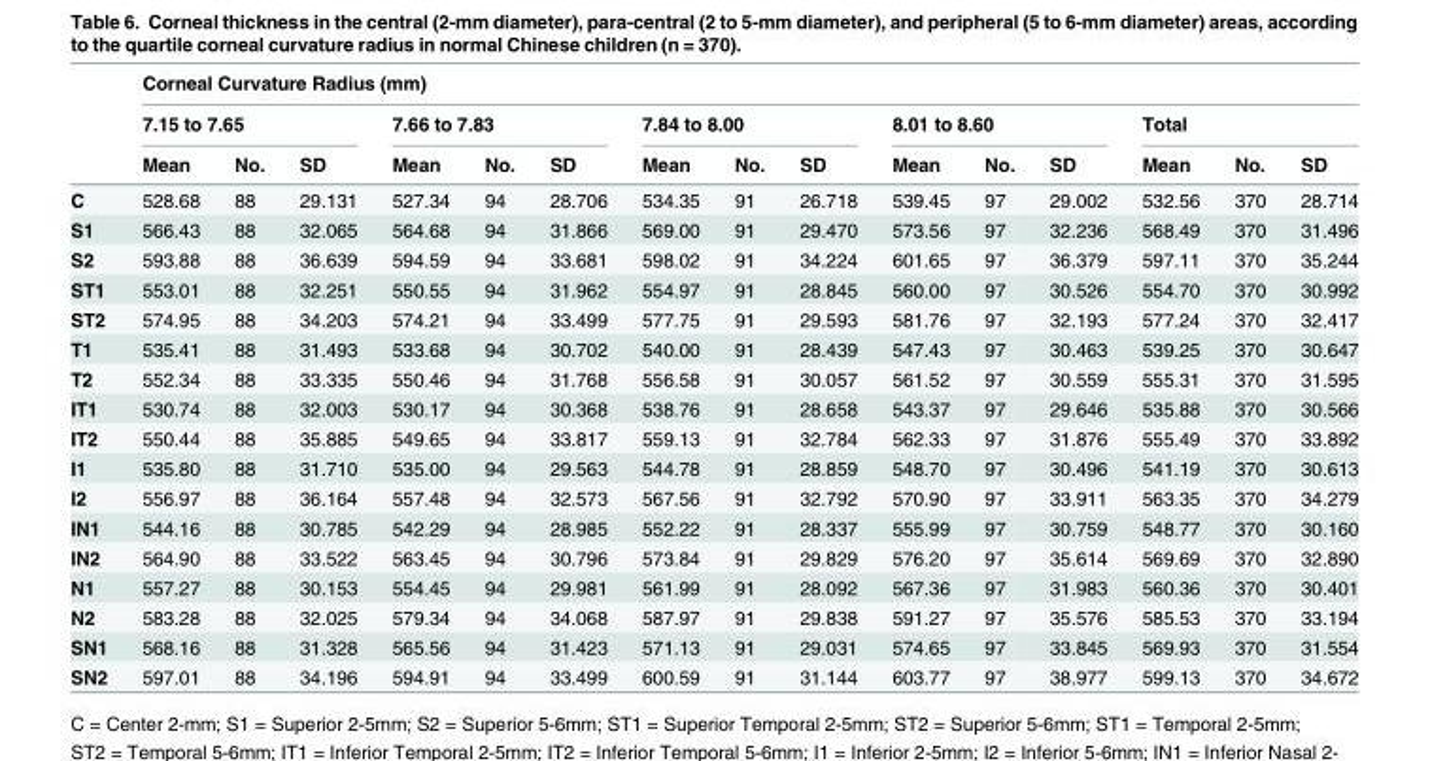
<table><thead><tr><td rowspan="3"></td><td colspan="15">Corneal Curvature Radius (mm)</td></tr><tr><td colspan="3">7.15 to 7.65</td><td colspan="3">7.66 to 7.83</td><td colspan="3">7.84 to 8.00</td><td colspan="3">8.01 to 8.60</td><td colspan="3">Total</td></tr><tr><td>Mean</td><td>No.</td><td>SD</td><td>Mean</td><td>No.</td><td>SD</td><td>Mean</td><td>No.</td><td>SD</td><td>Mean</td><td>No.</td><td>SD</td><td>Mean</td><td>No.</td><td>SD</td></tr></thead><tbody><tr><td>C</td><td>528.68</td><td>88</td><td>29.131</td><td>527.34</td><td>94</td><td>28.706</td><td>534.35</td><td>91</td><td>26.718</td><td>539.45</td><td>97</td><td>29.002</td><td>532.56</td><td>370</td><td>28.714</td></tr><tr><td>S1</td><td>566.43</td><td>88</td><td>32.065</td><td>564.68</td><td>94</td><td>31.866</td><td>569.00</td><td>91</td><td>29.470</td><td>573.56</td><td>97</td><td>32.236</td><td>568.49</td><td>370</td><td>31.496</td></tr><tr><td>S2</td><td>593.88</td><td>88</td><td>36.639</td><td>594.59</td><td>94</td><td>33.681</td><td>598.02</td><td>91</td><td>34.224</td><td>601.65</td><td>97</td><td>36.379</td><td>597.11</td><td>370</td><td>35.244</td></tr><tr><td>ST1</td><td>553.01</td><td>88</td><td>32.251</td><td>550.55</td><td>94</td><td>31.962</td><td>554.97</td><td>91</td><td>28.845</td><td>560.00</td><td>97</td><td>30.526</td><td>554.70</td><td>370</td><td>30.992</td></tr><tr><td>ST2</td><td>574.95</td><td>88</td><td>34.203</td><td>574.21</td><td>94</td><td>33.499</td><td>577.75</td><td>91</td><td>29.593</td><td>581.76</td><td>97</td><td>32.193</td><td>577.24</td><td>370</td><td>32.417</td></tr><tr><td>T1</td><td>535.41</td><td>88</td><td>31.493</td><td>533.68</td><td>94</td><td>30.702</td><td>540.00</td><td>91</td><td>28.439</td><td>547.43</td><td>97</td><td>30.463</td><td>539.25</td><td>370</td><td>30.647</td></tr><tr><td>T2</td><td>552.34</td><td>88</td><td>33.335</td><td>550.46</td><td>94</td><td>31.768</td><td>556.58</td><td>91</td><td>30.057</td><td>561.52</td><td>97</td><td>30.559</td><td>555.31</td><td>370</td><td>31.595</td></tr><tr><td>IT1</td><td>530.74</td><td>88</td><td>32.003</td><td>530.17</td><td>94</td><td>30.368</td><td>538.76</td><td>91</td><td>28.658</td><td>543.37</td><td>97</td><td>29.646</td><td>535.88</td><td>370</td><td>30.566</td></tr><tr><td>IT2</td><td>550.44</td><td>88</td><td>35.885</td><td>549.65</td><td>94</td><td>33.817</td><td>559.13</td><td>91</td><td>32.784</td><td>562.33</td><td>97</td><td>31.876</td><td>555.49</td><td>370</td><td>33.892</td></tr><tr><td>I1</td><td>535.80</td><td>88</td><td>31.710</td><td>535.00</td><td>94</td><td>29.563</td><td>544.78</td><td>91</td><td>28.859</td><td>548.70</td><td>97</td><td>30.496</td><td>541.19</td><td>370</td><td>30.613</td></tr><tr><td>I2</td><td>556.97</td><td>88</td><td>36.164</td><td>557.48</td><td>94</td><td>32.573</td><td>567.56</td><td>91</td><td>32.792</td><td>570.90</td><td>97</td><td>33.911</td><td>563.35</td><td>370</td><td>34.279</td></tr><tr><td>IN1</td><td>544.16</td><td>88</td><td>30.785</td><td>542.29</td><td>94</td><td>28.985</td><td>552.22</td><td>91</td><td>28.337</td><td>555.99</td><td>97</td><td>30.759</td><td>548.77</td><td>370</td><td>30.160</td></tr><tr><td>IN2</td><td>564.90</td><td>88</td><td>33.522</td><td>563.45</td><td>94</td><td>30.796</td><td>573.84</td><td>91</td><td>29.829</td><td>576.20</td><td>97</td><td>35.614</td><td>569.69</td><td>370</td><td>32.890</td></tr><tr><td>N1</td><td>557.27</td><td>88</td><td>30.153</td><td>554.45</td><td>94</td><td>29.981</td><td>561.99</td><td>91</td><td>28.092</td><td>567.36</td><td>97</td><td>31.983</td><td>560.36</td><td>370</td><td>30.401</td></tr><tr><td>N2</td><td>583.28</td><td>88</td><td>32.025</td><td>579.34</td><td>94</td><td>34.068</td><td>587.97</td><td>91</td><td>29.838</td><td>591.27</td><td>97</td><td>35.576</td><td>585.53</td><td>370</td><td>33.194</td></tr><tr><td>SN1</td><td>568.16</td><td>88</td><td>31.328</td><td>565.56</td><td>94</td><td>31.423</td><td>571.13</td><td>91</td><td>29.031</td><td>574.65</td><td>97</td><td>33.845</td><td>569.93</td><td>370</td><td>31.554</td></tr><tr><td>SN2</td><td>597.01</td><td>88</td><td>34.196</td><td>594.91</td><td>94</td><td>33.499</td><td>600.59</td><td>91</td><td>31.144</td><td>603.77</td><td>97</td><td>38.977</td><td>599.13</td><td>370</td><td>34.672</td></tr></tbody></table>